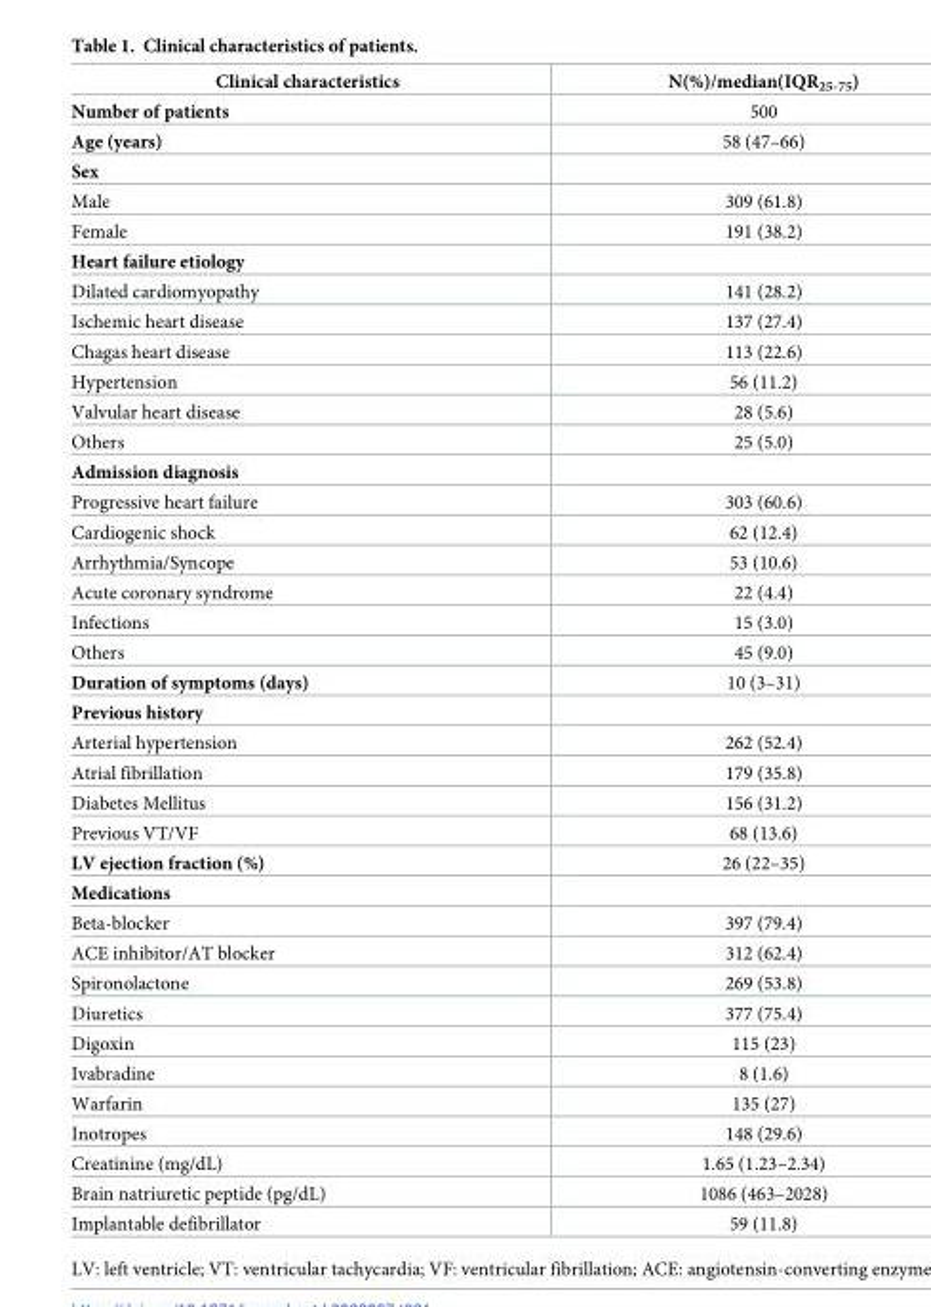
<table><thead><tr><td>Clinical characteristics</td><td>N(%)/median(IQR<sub>25-75</sub>)</td></tr></thead><tbody><tr><td>Number of patients</td><td>500</td></tr><tr><td>Age (years)</td><td>58 (47–66)</td></tr><tr><td colspan="2">Sex</td></tr><tr><td>Male</td><td>309 (61.8)</td></tr><tr><td>Female</td><td>191 (38.2)</td></tr><tr><td colspan="2">Heart failure etiology</td></tr><tr><td>Dilated cardiomyopathy</td><td>141 (28.2)</td></tr><tr><td>Ischemic heart disease</td><td>137 (27.4)</td></tr><tr><td>Chagas heart disease</td><td>113 (22.6)</td></tr><tr><td>Hypertension</td><td>56 (11.2)</td></tr><tr><td>Valvular heart disease</td><td>28 (5.6)</td></tr><tr><td>Others</td><td>25 (5.0)</td></tr><tr><td colspan="2">Admission diagnosis</td></tr><tr><td>Progressive heart failure</td><td>303 (60.6)</td></tr><tr><td>Cardiogenic shock</td><td>62 (12.4)</td></tr><tr><td>Arrhythmia/Syncope</td><td>53 (10.6)</td></tr><tr><td>Acute coronary syndrome</td><td>22 (4.4)</td></tr><tr><td>Infections</td><td>15 (3.0)</td></tr><tr><td>Others</td><td>45 (9.0)</td></tr><tr><td>Duration of symptoms (days)</td><td>10 (3–31)</td></tr><tr><td colspan="2">Previous history</td></tr><tr><td>Arterial hypertension</td><td>262 (52.4)</td></tr><tr><td>Atrial fibrillation</td><td>179 (35.8)</td></tr><tr><td>Diabetes Mellitus</td><td>156 (31.2)</td></tr><tr><td>Previous VT/VF</td><td>68 (13.6)</td></tr><tr><td>LV ejection fraction (%)</td><td>26 (22–35)</td></tr><tr><td colspan="2">Medications</td></tr><tr><td>Beta-blocker</td><td>397 (79.4)</td></tr><tr><td>ACE inhibitor/AT blocker</td><td>312 (62.4)</td></tr><tr><td>Spironolactone</td><td>269 (53.8)</td></tr><tr><td>Diuretics</td><td>377 (75.4)</td></tr><tr><td>Digoxin</td><td>115 (23)</td></tr><tr><td>Ivabradine</td><td>8 (1.6)</td></tr><tr><td>Warfarin</td><td>135 (27)</td></tr><tr><td>Inotropes</td><td>148 (29.6)</td></tr><tr><td>Creatinine (mg/dL)</td><td>1.65 (1.23–2.34)</td></tr><tr><td>Brain natriuretic peptide (pg/dL)</td><td>1086 (463–2028)</td></tr><tr><td>Implantable defibrillator</td><td>59 (11.8)</td></tr></tbody></table>